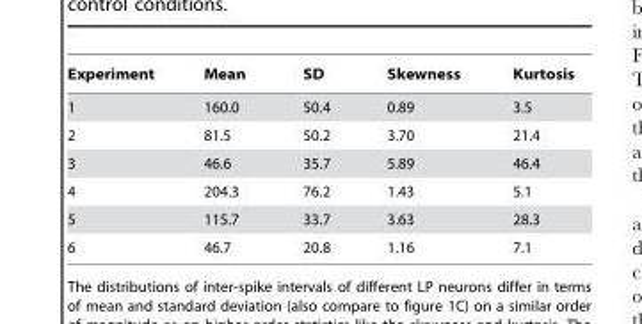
<table><thead><tr><td>Experiment</td><td>Mean</td><td>SD</td><td>Skewness</td><td>Kurtosis</td></tr></thead><tbody><tr><td>1</td><td>160.0</td><td>50.4</td><td>0.89</td><td>3.5</td></tr><tr><td>2</td><td>81.5</td><td>50.2</td><td>3.70</td><td>21.4</td></tr><tr><td>3</td><td>46.6</td><td>35.7</td><td>5.89</td><td>46.4</td></tr><tr><td>4</td><td>204.3</td><td>76.2</td><td>1.43</td><td>5.1</td></tr><tr><td>5</td><td>115.7</td><td>33.7</td><td>3.63</td><td>28.3</td></tr><tr><td>6</td><td>46.7</td><td>20.8</td><td>1.16</td><td>7.1</td></tr></tbody></table>